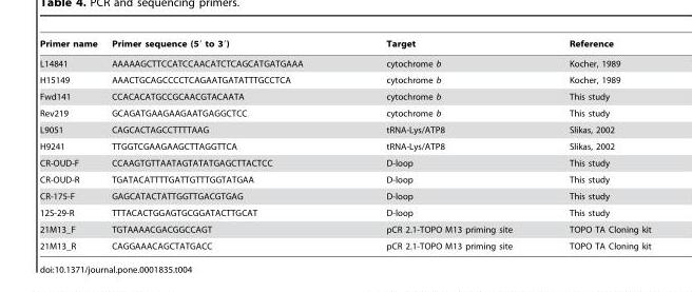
<table><thead><tr><td>Primer name</td><td>Primer sequence (5′ to 3′)</td><td>Target</td><td>Reference</td></tr></thead><tbody><tr><td>L14841</td><td>AAAAAGCTTCCATCCAACATCTCAGCATGATGAAA</td><td>cytochrome b</td><td>Kocher, 1989</td></tr><tr><td>H15149</td><td>AAACTGCAGCCCCTCAGAATGATATTTGCCTCA</td><td>cytochrome b</td><td>Kocher, 1989</td></tr><tr><td>Fwd141</td><td>CCACACATGCCGCAACGTACAATA</td><td>cytochrome b</td><td>This study</td></tr><tr><td>Rev219</td><td>GCAGATGAAGAAGAATGAGGCTCC</td><td>cytochrome b</td><td>This study</td></tr><tr><td>L9051</td><td>CAGCACTAGCCTTTTAAG</td><td>tRNA-Lys/ATP8</td><td>Slikas, 2002</td></tr><tr><td>H9241</td><td>TTGGTCGAAGAAGCTTAGGTTCA</td><td>tRNA-Lys/ATP8</td><td>Slikas, 2002</td></tr><tr><td>CR-OUD-F</td><td>CCAAGTGTTAATAGTATATGAGCTTACTCC</td><td>D-loop</td><td>This study</td></tr><tr><td>CR-OUD-R</td><td>TGATACATTTTGATTGTTTGGTATGAA</td><td>D-loop</td><td>This study</td></tr><tr><td>CR-175-F</td><td>GAGCATACTATTGGTTGACGTGAG</td><td>D-loop</td><td>This study</td></tr><tr><td>12S-29-R</td><td>TTTACACTGGAGTGCGGATACTTGCAT</td><td>D-loop</td><td>This study</td></tr><tr><td>21M13_F</td><td>TGTAAAACGACGGCCAGT</td><td>pCR 2.1-TOPO M13 priming site</td><td>TOPO TA Cloning kit</td></tr><tr><td>21M13_R</td><td>CAGGAAACAGCTATGACC</td><td>pCR 2.1-TOPO M13 priming site</td><td>TOPO TA Cloning kit</td></tr></tbody></table>